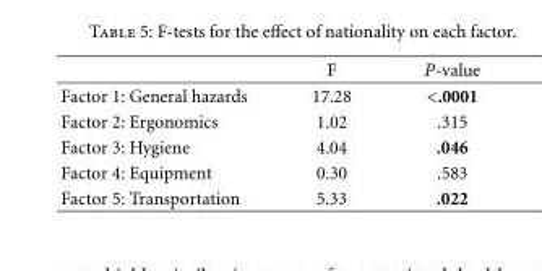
<table><thead><tr><td></td><td>F</td><td>P-value</td></tr></thead><tbody><tr><td>Factor 1: General hazards</td><td>17.28</td><td>&lt;.0001</td></tr><tr><td>Factor 2: Ergonomics</td><td>1.02</td><td>.315</td></tr><tr><td>Factor 3: Hygiene</td><td>4.04</td><td>.046</td></tr><tr><td>Factor 4: Equipment</td><td>0.30</td><td>.583</td></tr><tr><td>Factor 5: Transportation</td><td>5.33</td><td>.022</td></tr></tbody></table>